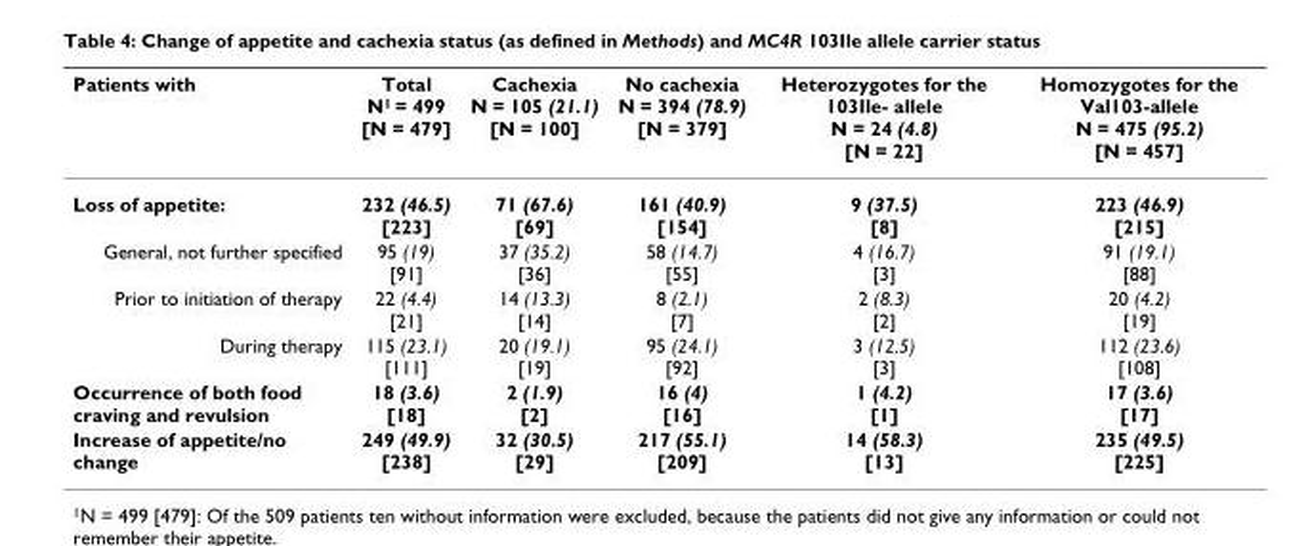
<table><thead><tr><td>Patients with</td><td>Total N<sup>1</sup> = 499 [N = 479]</td><td>Cachexia N = 105 (21.1) [N = 100]</td><td>No cachexia N = 394 (78.9) [N = 379]</td><td>Heterozygotes for the 103Ile- allele N = 24 (4.8) [N = 22]</td><td>Homozygotes for the Val103-allele N = 475 (95.2) [N = 457]</td></tr></thead><tbody><tr><td>Loss of appetite:</td><td>232 (46.5) [223]</td><td>71 (67.6) [69]</td><td>161 (40.9) [154]</td><td>9 (37.5) [8]</td><td>223 (46.9) [215]</td></tr><tr><td>General, not further specified</td><td>95 (19) [91]</td><td>37 (35.2) [36]</td><td>58 (14.7) [55]</td><td>4 (16.7) [3]</td><td>91 (19.1) [88]</td></tr><tr><td>Prior to initiation of therapy</td><td>22 (4.4) [21]</td><td>14 (13.3) [14]</td><td>8 (2.1) [7]</td><td>2 (8.3) [2]</td><td>20 (4.2) [19]</td></tr><tr><td>During therapy</td><td>115 (23.1) [111]</td><td>20 (19.1) [19]</td><td>95 (24.1) [92]</td><td>3 (12.5) [3]</td><td>112 (23.6) [108]</td></tr><tr><td>Occurrence of both food craving and revulsion</td><td>18 (3.6) [18]</td><td>2 (1.9) [2]</td><td>16 (4) [16]</td><td>1 (4.2) [1]</td><td>17 (3.6) [17]</td></tr><tr><td>Increase of appetite/no change</td><td>249 (49.9) [238]</td><td>32 (30.5) [29]</td><td>217 (55.1) [209]</td><td>14 (58.3) [13]</td><td>235 (49.5) [225]</td></tr></tbody></table>